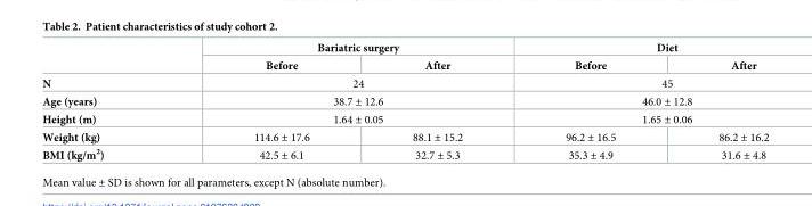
<table><thead><tr><td rowspan="2"></td><td colspan="2">Bariatric surgery</td><td colspan="2">Diet</td></tr><tr><td>Before</td><td>After</td><td>Before</td><td>After</td></tr></thead><tbody><tr><td>N</td><td colspan="2">24</td><td colspan="2">45</td></tr><tr><td>Age (years)</td><td colspan="2">38.7 ± 12.6</td><td colspan="2">46.0 ± 12.8</td></tr><tr><td>Height (m)</td><td colspan="2">1.64 ± 0.05</td><td colspan="2">1.65 ± 0.06</td></tr><tr><td>Weight (kg)</td><td>114.6 ± 17.6</td><td>88.1 ± 15.2</td><td>96.2 ± 16.5</td><td>86.2 ± 16.2</td></tr><tr><td>BMI (kg/m<sup>2</sup>)</td><td>42.5 ± 6.1</td><td>32.7 ± 5.3</td><td>35.3 ± 4.9</td><td>31.6 ± 4.8</td></tr></tbody></table>